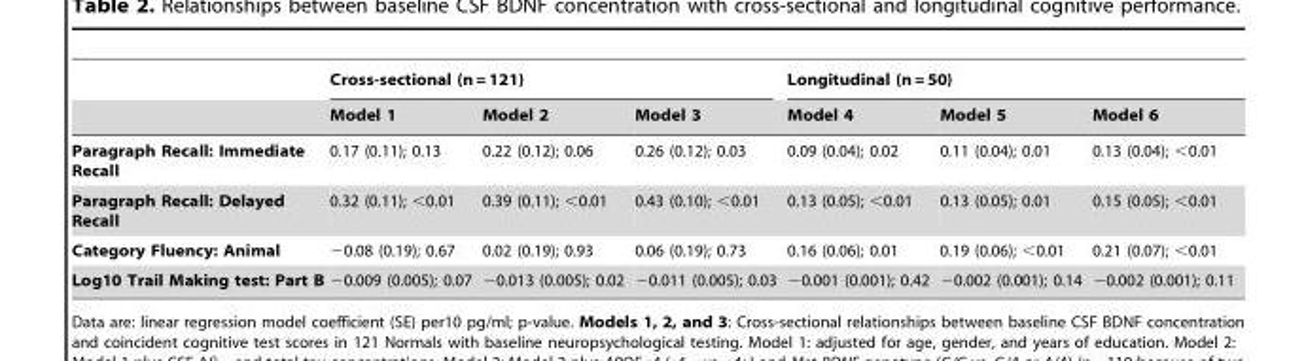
<table><thead><tr><td rowspan="2"></td><td colspan="3">Cross-sectional (n = 121)</td><td colspan="3">Longitudinal (n = 50)</td></tr><tr><td>Model 1</td><td>Model 2</td><td>Model 3</td><td>Model 4</td><td>Model 5</td><td>Model 6</td></tr></thead><tbody><tr><td>Paragraph Recall: Immediate Recall</td><td>0.17 (0.11); 0.13</td><td>0.22 (0.12); 0.06</td><td>0.26 (0.12); 0.03</td><td>0.09 (0.04); 0.02</td><td>0.11 (0.04); 0.01</td><td>0.13 (0.04); &lt;0.01</td></tr><tr><td>Paragraph Recall: Delayed Recall</td><td>0.32 (0.11); &lt;0.01</td><td>0.39 (0.11); &lt;0.01</td><td>0.43 (0.10); &lt;0.01</td><td>0.13 (0.05); &lt;0.01</td><td>0.13 (0.05); 0.01</td><td>0.15 (0.05); &lt;0.01</td></tr><tr><td>Category Fluency: Animal</td><td>−0.08 (0.19); 0.67</td><td>0.02 (0.19); 0.93</td><td>0.06 (0.19); 0.73</td><td>0.16 (0.06); 0.01</td><td>0.19 (0.06); &lt;0.01</td><td>0.21 (0.07); &lt;0.01</td></tr><tr><td>Log10 Trail Making test: Part B</td><td>−0.009 (0.005); 0.07</td><td>−0.013 (0.005); 0.02</td><td>−0.011 (0.005); 0.03</td><td>−0.001 (0.001); 0.42</td><td>−0.002 (0.001); 0.14</td><td>−0.002 (0.001); 0.11</td></tr></tbody></table>